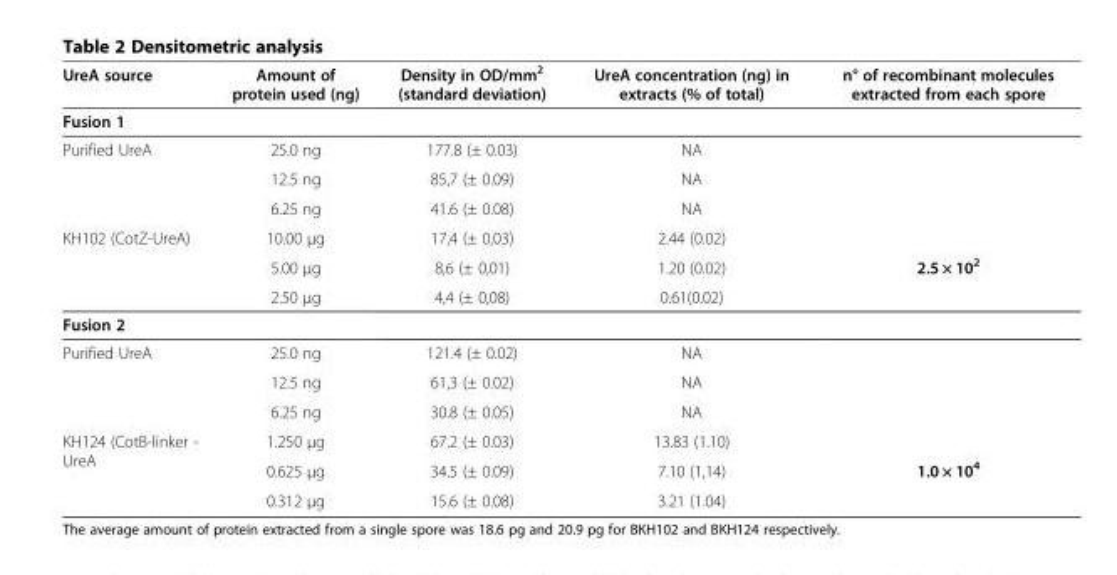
<table><thead><tr><td>UreA source</td><td>Amount of protein used (ng)</td><td>Density in OD/mm<sup>2</sup> (standard deviation)</td><td>UreA concentration (ng) in extracts (% of total)</td><td>n° of recombinant molecules extracted from each spore</td></tr></thead><tbody><tr><td colspan="5">Fusion 1</td></tr><tr><td rowspan="3">Purified UreA</td><td>25.0 ng</td><td>177.8 (± 0.03)</td><td>NA</td><td rowspan="3"></td></tr><tr><td>12.5 ng</td><td>85,7 (± 0.09)</td><td>NA</td></tr><tr><td>6.25 ng</td><td>41.6 (± 0.08)</td><td>NA</td></tr><tr><td rowspan="3">KH102 (CotZ-UreA)</td><td>10.00 μg</td><td>17,4 (± 0,03)</td><td>2.44 (0.02)</td><td rowspan="2">2.5 × 10<sup>2</sup></td></tr><tr><td>5.00 μg</td><td>8,6 (± 0,01)</td><td>1.20 (0.02)</td></tr><tr><td>2.50 μg</td><td>4,4 (± 0,08)</td><td>0.61(0.02)</td><td></td></tr><tr><td colspan="5">Fusion 2</td></tr><tr><td rowspan="3">Purified UreA</td><td>25.0 ng</td><td>121.4 (± 0.02)</td><td>NA</td><td rowspan="3"></td></tr><tr><td>12.5 ng</td><td>61,3 (± 0.02)</td><td>NA</td></tr><tr><td>6.25 ng</td><td>30.8 (± 0.05)</td><td>NA</td></tr><tr><td rowspan="3">KH124 (CotB-linker - UreA</td><td>1.250 μg</td><td>67.2 (± 0.03)</td><td>13.83 (1.10)</td><td rowspan="2">1.0 × 10<sup>4</sup></td></tr><tr><td>0.625 μg</td><td>34.5 (± 0.09)</td><td>7.10 (1,14)</td></tr><tr><td>0.312 μg</td><td>15.6 (± 0.08)</td><td>3.21 (1.04)</td><td></td></tr></tbody></table>